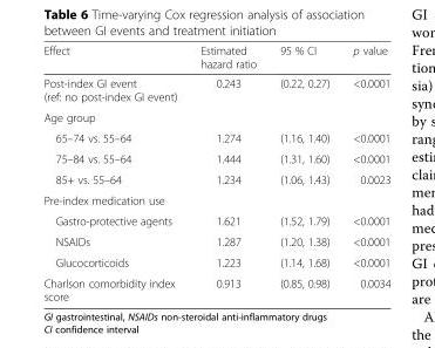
<table><thead><tr><td>Effect</td><td>Estimated hazard ratio</td><td>95 % CI</td><td>p value</td></tr></thead><tbody><tr><td>Post-index GI event (ref: no post-index GI event)</td><td>0.243</td><td>(0.22, 0.27)</td><td>&lt;0.0001</td></tr><tr><td colspan="4">Age group</td></tr><tr><td>65–74 vs. 55–64</td><td>1.274</td><td>(1.16, 1.40)</td><td>&lt;0.0001</td></tr><tr><td>75–84 vs. 55–64</td><td>1.444</td><td>(1.31, 1.60)</td><td>&lt;0.0001</td></tr><tr><td>85+ vs. 55–64</td><td>1.234</td><td>(1.06, 1.43)</td><td>0.0023</td></tr><tr><td colspan="4">Pre-index medication use</td></tr><tr><td>Gastro-protective agents</td><td>1.621</td><td>(1.52, 1.79)</td><td>&lt;0.0001</td></tr><tr><td>NSAIDs</td><td>1.287</td><td>(1.20, 1.38)</td><td>&lt;0.0001</td></tr><tr><td>Glucocorticoids</td><td>1.223</td><td>(1.14, 1.68)</td><td>&lt;0.0001</td></tr><tr><td>Charlson comorbidity index score</td><td>0.913</td><td>(0.85, 0.98)</td><td>0.0034</td></tr></tbody></table>